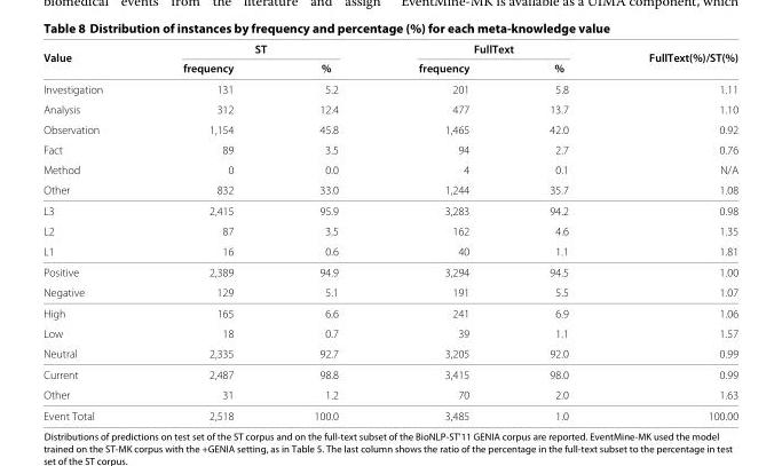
<table><thead><tr><td rowspan="2">Value</td><td colspan="2">ST</td><td colspan="2">FullText</td><td rowspan="2">FullText(%)/ST(%)</td></tr><tr><td>frequency</td><td>%</td><td>frequency</td><td>%</td></tr></thead><tbody><tr><td>Investigation</td><td>131</td><td>5.2</td><td>201</td><td>5.8</td><td>1.11</td></tr><tr><td>Analysis</td><td>312</td><td>12.4</td><td>477</td><td>13.7</td><td>1.10</td></tr><tr><td>Observation</td><td>1,154</td><td>45.8</td><td>1,465</td><td>42.0</td><td>0.92</td></tr><tr><td>Fact</td><td>89</td><td>3.5</td><td>94</td><td>2.7</td><td>0.76</td></tr><tr><td>Method</td><td>0</td><td>0.0</td><td>4</td><td>0.1</td><td>N/A</td></tr><tr><td>Other</td><td>832</td><td>33.0</td><td>1,244</td><td>35.7</td><td>1.08</td></tr><tr><td>L3</td><td>2,415</td><td>95.9</td><td>3,283</td><td>94.2</td><td>0.98</td></tr><tr><td>L2</td><td>87</td><td>3.5</td><td>162</td><td>4.6</td><td>1.35</td></tr><tr><td>L1</td><td>16</td><td>0.6</td><td>40</td><td>1.1</td><td>1.81</td></tr><tr><td>Positive</td><td>2,389</td><td>94.9</td><td>3,294</td><td>94.5</td><td>1.00</td></tr><tr><td>Negative</td><td>129</td><td>5.1</td><td>191</td><td>5.5</td><td>1.07</td></tr><tr><td>High</td><td>165</td><td>6.6</td><td>241</td><td>6.9</td><td>1.06</td></tr><tr><td>Low</td><td>18</td><td>0.7</td><td>39</td><td>1.1</td><td>1.57</td></tr><tr><td>Neutral</td><td>2,335</td><td>92.7</td><td>3,205</td><td>92.0</td><td>0.99</td></tr><tr><td>Current</td><td>2,487</td><td>98.8</td><td>3,415</td><td>98.0</td><td>0.99</td></tr><tr><td>Other</td><td>31</td><td>1.2</td><td>70</td><td>2.0</td><td>1.63</td></tr><tr><td>Event Total</td><td>2,518</td><td>100.0</td><td>3,485</td><td>1.0</td><td>100.00</td></tr></tbody></table>